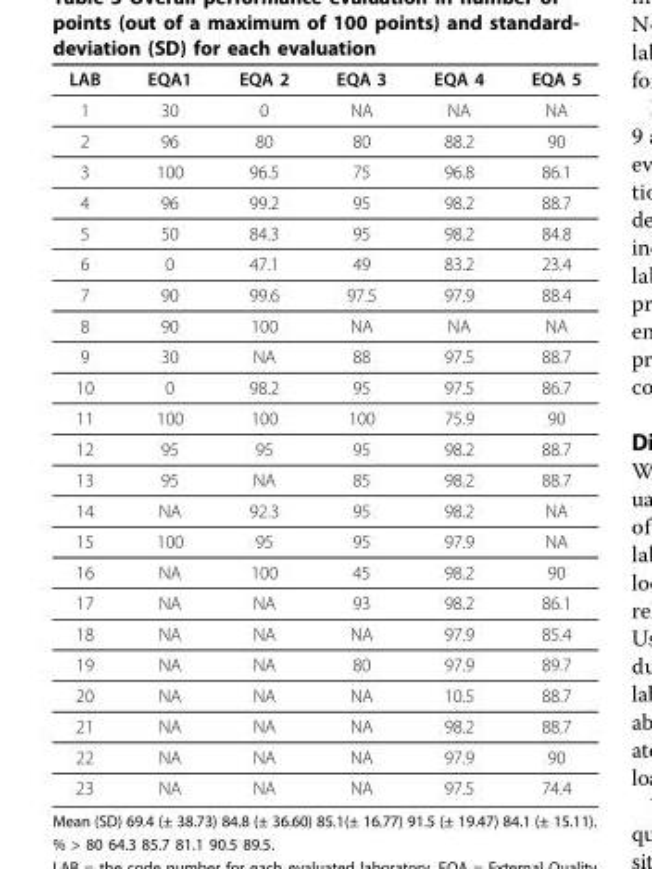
<table><thead><tr><td>LAB</td><td>EQA1</td><td>EQA 2</td><td>EQA 3</td><td>EQA 4</td><td>EQA 5</td></tr></thead><tbody><tr><td>1</td><td>30</td><td>0</td><td>NA</td><td>NA</td><td>NA</td></tr><tr><td>2</td><td>96</td><td>80</td><td>80</td><td>88.2</td><td>90</td></tr><tr><td>3</td><td>100</td><td>96.5</td><td>75</td><td>96.8</td><td>86.1</td></tr><tr><td>4</td><td>96</td><td>99.2</td><td>95</td><td>98.2</td><td>88.7</td></tr><tr><td>5</td><td>50</td><td>84.3</td><td>95</td><td>98.2</td><td>84.8</td></tr><tr><td>6</td><td>0</td><td>47.1</td><td>49</td><td>83.2</td><td>23.4</td></tr><tr><td>7</td><td>90</td><td>99.6</td><td>97.5</td><td>97.9</td><td>88.4</td></tr><tr><td>8</td><td>90</td><td>100</td><td>NA</td><td>NA</td><td>NA</td></tr><tr><td>9</td><td>30</td><td>NA</td><td>88</td><td>97.5</td><td>88.7</td></tr><tr><td>10</td><td>0</td><td>98.2</td><td>95</td><td>97.5</td><td>86.7</td></tr><tr><td>11</td><td>100</td><td>100</td><td>100</td><td>75.9</td><td>90</td></tr><tr><td>12</td><td>95</td><td>95</td><td>95</td><td>98.2</td><td>88.7</td></tr><tr><td>13</td><td>95</td><td>NA</td><td>85</td><td>98.2</td><td>88.7</td></tr><tr><td>14</td><td>NA</td><td>92.3</td><td>95</td><td>98.2</td><td>NA</td></tr><tr><td>15</td><td>100</td><td>95</td><td>95</td><td>97.9</td><td>NA</td></tr><tr><td>16</td><td>NA</td><td>100</td><td>45</td><td>98.2</td><td>90</td></tr><tr><td>17</td><td>NA</td><td>NA</td><td>93</td><td>98.2</td><td>86.1</td></tr><tr><td>18</td><td>NA</td><td>NA</td><td>NA</td><td>97.9</td><td>85.4</td></tr><tr><td>19</td><td>NA</td><td>NA</td><td>80</td><td>97.9</td><td>89.7</td></tr><tr><td>20</td><td>NA</td><td>NA</td><td>NA</td><td>10.5</td><td>88.7</td></tr><tr><td>21</td><td>NA</td><td>NA</td><td>NA</td><td>98.2</td><td>88.7</td></tr><tr><td>22</td><td>NA</td><td>NA</td><td>NA</td><td>97.9</td><td>90</td></tr><tr><td>23</td><td>NA</td><td>NA</td><td>NA</td><td>97.5</td><td>74.4</td></tr></tbody></table>